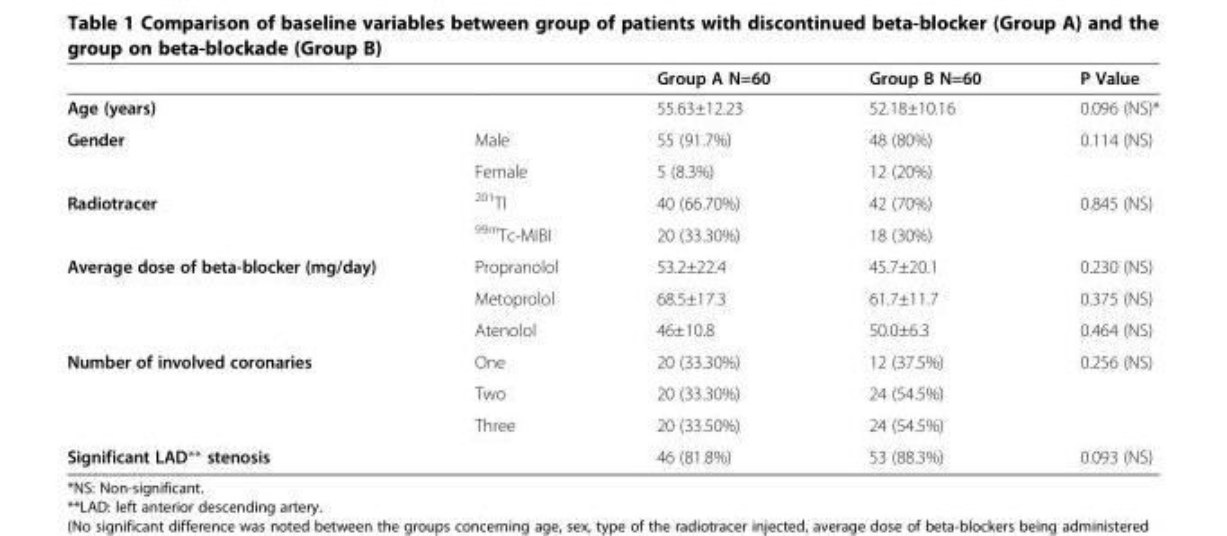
<table><thead><tr><td></td><td></td><td>Group A N=60</td><td>Group B N=60</td><td>P Value</td></tr></thead><tbody><tr><td>Age (years)</td><td></td><td>55.63±12.23</td><td>52.18±10.16</td><td>0.096 (NS)*</td></tr><tr><td rowspan="2">Gender</td><td>Male</td><td>55 (91.7%)</td><td>48 (80%)</td><td>0.114 (NS)</td></tr><tr><td>Female</td><td>5 (8.3%)</td><td>12 (20%)</td><td></td></tr><tr><td rowspan="2">Radiotracer</td><td><sup>201</sup>Tl</td><td>40 (66.70%)</td><td>42 (70%)</td><td>0.845 (NS)</td></tr><tr><td><sup>99m</sup>Tc-MIBI</td><td>20 (33.30%)</td><td>18 (30%)</td><td></td></tr><tr><td rowspan="3">Average dose of beta-blocker (mg/day)</td><td>Propranolol</td><td>53.2±22.4</td><td>45.7±20.1</td><td>0.230 (NS)</td></tr><tr><td>Metoprolol</td><td>68.5±17.3</td><td>61.7±11.7</td><td>0.375 (NS)</td></tr><tr><td>Atenolol</td><td>46±10.8</td><td>50.0±6.3</td><td>0.464 (NS)</td></tr><tr><td rowspan="3">Number of involved coronaries</td><td>One</td><td>20 (33.30%)</td><td>12 (37.5%)</td><td>0.256 (NS)</td></tr><tr><td>Two</td><td>20 (33.30%)</td><td>24 (54.5%)</td><td></td></tr><tr><td>Three</td><td>20 (33.50%)</td><td>24 (54.5%)</td><td></td></tr><tr><td>Significant LAD** stenosis</td><td></td><td>46 (81.8%)</td><td>53 (88.3%)</td><td>0.093 (NS)</td></tr></tbody></table>